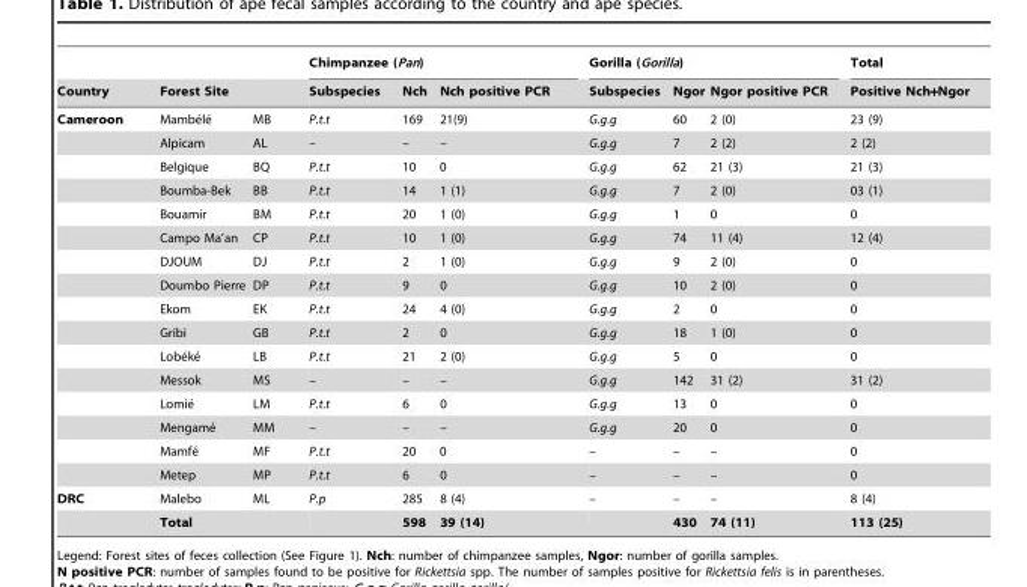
<table><thead><tr><td rowspan="2">Country</td><td rowspan="2">Forest Site</td><td rowspan="2"></td><td colspan="3">Chimpanzee (Pan)</td><td colspan="3">Gorilla (Gorilla)</td><td rowspan="2">Total Positive Nch+Ngor</td></tr><tr><td>Subspecies</td><td>Nch</td><td>Nch positive PCR</td><td>Subspecies</td><td>Ngor</td><td>Ngor positive PCR</td></tr></thead><tbody><tr><td rowspan="16">Cameroon</td><td>Mambe´le´</td><td>MB</td><td>P.t.t</td><td>169</td><td>21(9)</td><td>G.g.g</td><td>60</td><td>2 (0)</td><td>23 (9)</td></tr><tr><td>Alpicam</td><td>AL</td><td>–</td><td>–</td><td>–</td><td>G.g.g</td><td>7</td><td>2 (2)</td><td>2 (2)</td></tr><tr><td>Belgique</td><td>BQ</td><td>P.t.t</td><td>10</td><td>0</td><td>G.g.g</td><td>62</td><td>21 (3)</td><td>21 (3)</td></tr><tr><td>Boumba-Bek</td><td>BB</td><td>P.t.t</td><td>14</td><td>1 (1)</td><td>G.g.g</td><td>7</td><td>2 (0)</td><td>03 (1)</td></tr><tr><td>Bouamir</td><td>BM</td><td>P.t.t</td><td>20</td><td>1 (0)</td><td>G.g.g</td><td>1</td><td>0</td><td>0</td></tr><tr><td>Campo Ma’an</td><td>CP</td><td>P.t.t</td><td>10</td><td>1 (0)</td><td>G.g.g</td><td>74</td><td>11 (4)</td><td>12 (4)</td></tr><tr><td>DJOUM</td><td>DJ</td><td>P.t.t</td><td>2</td><td>1 (0)</td><td>G.g.g</td><td>9</td><td>2 (0)</td><td>0</td></tr><tr><td>Doumbo Pierre</td><td>DP</td><td>P.t.t</td><td>9</td><td>0</td><td>G.g.g</td><td>10</td><td>2 (0)</td><td>0</td></tr><tr><td>Ekom</td><td>EK</td><td>P.t.t</td><td>24</td><td>4 (0)</td><td>G.g.g</td><td>2</td><td>0</td><td>0</td></tr><tr><td>Gribi</td><td>GB</td><td>P.t.t</td><td>2</td><td>0</td><td>G.g.g</td><td>18</td><td>1 (0)</td><td>0</td></tr><tr><td>Lobe´ke´</td><td>LB</td><td>P.t.t</td><td>21</td><td>2 (0)</td><td>G.g.g</td><td>5</td><td>0</td><td>0</td></tr><tr><td>Messok</td><td>MS</td><td>–</td><td>–</td><td>–</td><td>G.g.g</td><td>142</td><td>31 (2)</td><td>31 (2)</td></tr><tr><td>Lomie´</td><td>LM</td><td>P.t.t</td><td>6</td><td>0</td><td>G.g.g</td><td>13</td><td>0</td><td>0</td></tr><tr><td>Mengame´</td><td>MM</td><td>–</td><td>–</td><td>–</td><td>G.g.g</td><td>20</td><td>0</td><td>0</td></tr><tr><td>Mamfe´</td><td>MF</td><td>P.t.t</td><td>20</td><td>0</td><td>–</td><td>–</td><td>–</td><td>0</td></tr><tr><td>Metep</td><td>MP</td><td>P.t.t</td><td>6</td><td>0</td><td>–</td><td>–</td><td>–</td><td>0</td></tr><tr><td rowspan="2">DRC</td><td>Malebo</td><td>ML</td><td>P.p</td><td>285</td><td>8 (4)</td><td>–</td><td>–</td><td>–</td><td>8 (4)</td></tr><tr><td>Total</td><td></td><td></td><td>598</td><td>39 (14)</td><td></td><td>430</td><td>74 (11)</td><td>113 (25)</td></tr></tbody></table>